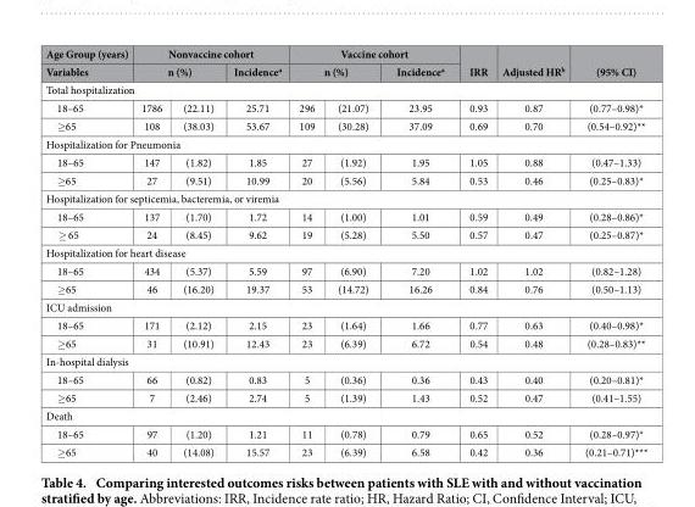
<table><thead><tr><td rowspan="2">Age Group (years) Variables</td><td colspan="3">Nonvaccine cohort</td><td colspan="3">Vaccine cohort</td><td rowspan="2">IRR</td><td rowspan="2">Adjusted HR<sup>b</sup></td><td rowspan="2">(95% CI)</td></tr><tr><td colspan="2">n (%)</td><td>Incidence<sup>a</sup></td><td colspan="2">n (%)</td><td>Incidence<sup>a</sup></td></tr><tr><td colspan="10">Total hospitalization</td></tr><tr><td>18–65</td><td>1786</td><td>(22.11)</td><td>25.71</td><td>296</td><td>(21.07)</td><td>23.95</td><td>0.93</td><td>0.87</td><td>(0.77–0.98)*</td></tr></thead><tbody><tr><td>≥ 65</td><td>108</td><td>(38.03)</td><td>53.67</td><td>109</td><td>(30.28)</td><td>37.09</td><td>0.69</td><td>0.70</td><td>(0.54–0.92)**</td></tr><tr><td colspan="10">Hospitalization for Pneumonia</td></tr><tr><td>18–65</td><td>147</td><td>(1.82)</td><td>1.85</td><td>27</td><td>(1.92)</td><td>1.95</td><td>1.05</td><td>0.88</td><td>(0.47–1.33)</td></tr><tr><td>≥ 65</td><td>27</td><td>(9.51)</td><td>10.99</td><td>20</td><td>(5.56)</td><td>5.84</td><td>0.53</td><td>0.46</td><td>(0.25–0.83)*</td></tr><tr><td colspan="10">Hospitalization for septicemia, bacteremia, or viremia</td></tr><tr><td>18–65</td><td>137</td><td>(1.70)</td><td>1.72</td><td>14</td><td>(1.00)</td><td>1.01</td><td>0.59</td><td>0.49</td><td>(0.28–0.86)*</td></tr><tr><td>≥ 65</td><td>24</td><td>(8.45)</td><td>9.62</td><td>19</td><td>(5.28)</td><td>5.50</td><td>0.57</td><td>0.47</td><td>(0.25–0.87)*</td></tr><tr><td colspan="10">Hospitalization for heart disease</td></tr><tr><td>18–65</td><td>434</td><td>(5.37)</td><td>5.59</td><td>97</td><td>(6.90)</td><td>7.20</td><td>1.02</td><td>1.02</td><td>(0.82–1.28)</td></tr><tr><td>≥ 65</td><td>46</td><td>(16.20)</td><td>19.37</td><td>53</td><td>(14.72)</td><td>16.26</td><td>0.84</td><td>0.76</td><td>(0.50–1.13)</td></tr><tr><td colspan="10">ICU admission</td></tr><tr><td>18–65</td><td>171</td><td>(2.12)</td><td>2.15</td><td>23</td><td>(1.64)</td><td>1.66</td><td>0.77</td><td>0.63</td><td>(0.40–0.98)*</td></tr><tr><td>≥ 65</td><td>31</td><td>(10.91)</td><td>12.43</td><td>23</td><td>(6.39)</td><td>6.72</td><td>0.54</td><td>0.48</td><td>(0.28–0.83)**</td></tr><tr><td colspan="10">In-hospital dialysis</td></tr><tr><td>18–65</td><td>66</td><td>(0.82)</td><td>0.83</td><td>5</td><td>(0.36)</td><td>0.36</td><td>0.43</td><td>0.40</td><td>(0.20–0.81)*</td></tr><tr><td>≥ 65</td><td>7</td><td>(2.46)</td><td>2.74</td><td>5</td><td>(1.39)</td><td>1.43</td><td>0.52</td><td>0.47</td><td>(0.41–1.55)</td></tr><tr><td colspan="10">Death</td></tr><tr><td>18–65</td><td>97</td><td>(1.20)</td><td>1.21</td><td>11</td><td>(0.78)</td><td>0.79</td><td>0.65</td><td>0.52</td><td>(0.28–0.97)*</td></tr><tr><td>≥ 65</td><td>40</td><td>(14.08)</td><td>15.57</td><td>23</td><td>(6.39)</td><td>6.58</td><td>0.42</td><td>0.36</td><td>(0.21–0.71)***</td></tr></tbody></table>